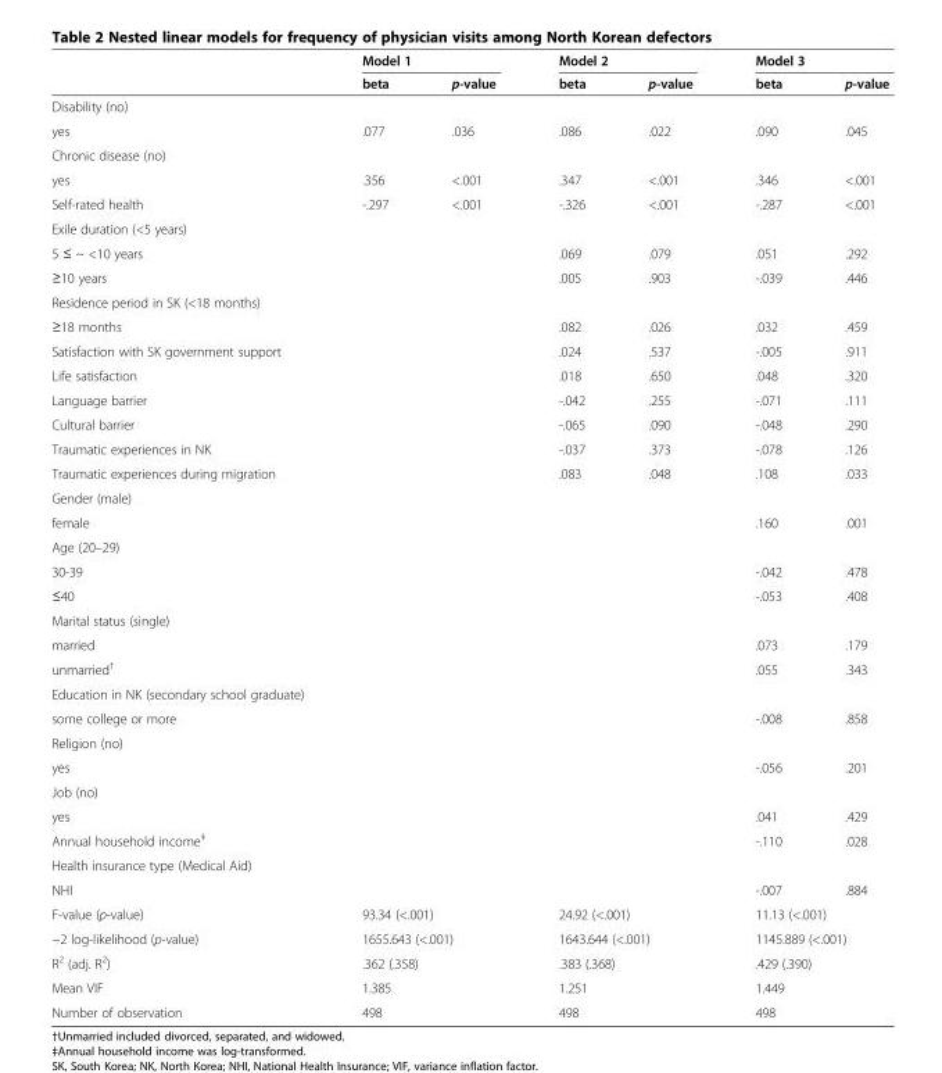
<table><thead><tr><td rowspan="2"></td><td colspan="2">Model 1</td><td colspan="2">Model 2</td><td colspan="2">Model 3</td></tr><tr><td>beta</td><td>p-value</td><td>beta</td><td>p-value</td><td>beta</td><td>p-value</td></tr></thead><tbody><tr><td colspan="7">Disability (no)</td></tr><tr><td>yes</td><td>.077</td><td>.036</td><td>.086</td><td>.022</td><td>.090</td><td>.045</td></tr><tr><td colspan="7">Chronic disease (no)</td></tr><tr><td>yes</td><td>.356</td><td>&lt;.001</td><td>.347</td><td>&lt;.001</td><td>.346</td><td>&lt;.001</td></tr><tr><td>Self-rated health</td><td>-.297</td><td>&lt;.001</td><td>-.326</td><td>&lt;.001</td><td>-.287</td><td>&lt;.001</td></tr><tr><td colspan="7">Exile duration (&lt;5 years)</td></tr><tr><td>5 ≤ ~ &lt;10 years</td><td></td><td></td><td>.069</td><td>.079</td><td>.051</td><td>.292</td></tr><tr><td>≥10 years</td><td></td><td></td><td>.005</td><td>.903</td><td>-.039</td><td>.446</td></tr><tr><td colspan="7">Residence period in SK (&lt;18 months)</td></tr><tr><td>≥18 months</td><td></td><td></td><td>.082</td><td>.026</td><td>.032</td><td>.459</td></tr><tr><td>Satisfaction with SK government support</td><td></td><td></td><td>.024</td><td>.537</td><td>-.005</td><td>.911</td></tr><tr><td>Life satisfaction</td><td></td><td></td><td>.018</td><td>.650</td><td>.048</td><td>.320</td></tr><tr><td>Language barrier</td><td></td><td></td><td>-.042</td><td>.255</td><td>-.071</td><td>.111</td></tr><tr><td>Cultural barrier</td><td></td><td></td><td>-.065</td><td>.090</td><td>-.048</td><td>.290</td></tr><tr><td>Traumatic experiences in NK</td><td></td><td></td><td>-.037</td><td>.373</td><td>-.078</td><td>.126</td></tr><tr><td>Traumatic experiences during migration</td><td></td><td></td><td>.083</td><td>.048</td><td>.108</td><td>.033</td></tr><tr><td colspan="7">Gender (male)</td></tr><tr><td>female</td><td></td><td></td><td></td><td></td><td>.160</td><td>.001</td></tr><tr><td colspan="7">Age (20–29)</td></tr><tr><td>30-39</td><td></td><td></td><td></td><td></td><td>-.042</td><td>.478</td></tr><tr><td>≤40</td><td></td><td></td><td></td><td></td><td>-.053</td><td>.408</td></tr><tr><td colspan="7">Marital status (single)</td></tr><tr><td>married</td><td></td><td></td><td></td><td></td><td>.073</td><td>.179</td></tr><tr><td>unmarried<sup>†</sup></td><td></td><td></td><td></td><td></td><td>.055</td><td>.343</td></tr><tr><td colspan="7">Education in NK (secondary school graduate)</td></tr><tr><td>some college or more</td><td></td><td></td><td></td><td></td><td>-.008</td><td>.858</td></tr><tr><td colspan="7">Religion (no)</td></tr><tr><td>yes</td><td></td><td></td><td></td><td></td><td>-.056</td><td>.201</td></tr><tr><td colspan="7">Job (no)</td></tr><tr><td>yes</td><td></td><td></td><td></td><td></td><td>.041</td><td>.429</td></tr><tr><td>Annual household income<sup>‡</sup></td><td></td><td></td><td></td><td></td><td>-.110</td><td>.028</td></tr><tr><td colspan="7">Health insurance type (Medical Aid)</td></tr><tr><td>NHI</td><td></td><td></td><td></td><td></td><td>-.007</td><td>.884</td></tr><tr><td>F-value (p-value)</td><td colspan="2">93.34 (&lt;.001)</td><td colspan="2">24.92 (&lt;.001)</td><td colspan="2">11.13 (&lt;.001)</td></tr><tr><td>−2 log-likelihood (p-value)</td><td colspan="2">1655.643 (&lt;.001)</td><td colspan="2">1643.644 (&lt;.001)</td><td colspan="2">1145.889 (&lt;.001)</td></tr><tr><td>R<sup>2</sup> (adj. R<sup>2</sup>)</td><td colspan="2">.362 (.358)</td><td colspan="2">.383 (.368)</td><td colspan="2">.429 (.390)</td></tr><tr><td>Mean VIF</td><td colspan="2">1.385</td><td colspan="2">1.251</td><td colspan="2">1.449</td></tr><tr><td>Number of observation</td><td colspan="2">498</td><td colspan="2">498</td><td colspan="2">498</td></tr></tbody></table>